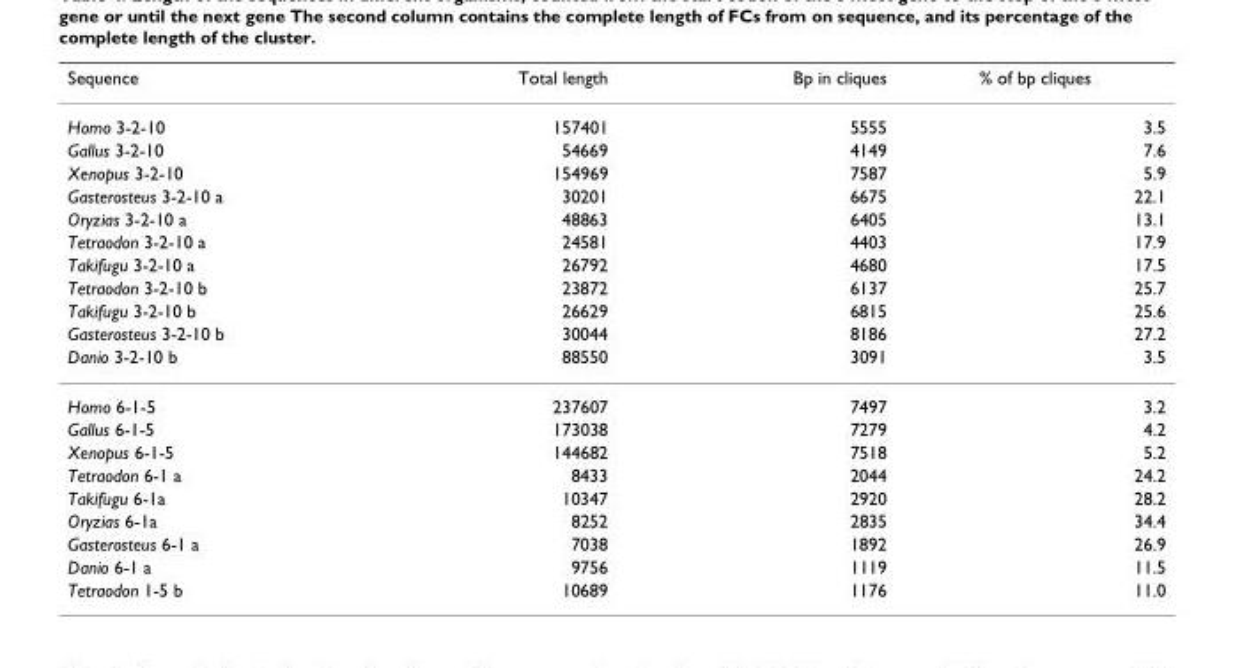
<table><thead><tr><td>Sequence</td><td>Total length</td><td>Bp in cliques</td><td>% of bp cliques</td></tr></thead><tbody><tr><td>Homo 3-2-10</td><td>157401</td><td>5555</td><td>3.5</td></tr><tr><td>Gallus 3-2-10</td><td>54669</td><td>4149</td><td>7.6</td></tr><tr><td>Xenopus 3-2-10</td><td>154969</td><td>7587</td><td>5.9</td></tr><tr><td>Gasterosteus 3-2-10 a</td><td>30201</td><td>6675</td><td>22.1</td></tr><tr><td>Oryzias 3-2-10 a</td><td>48863</td><td>6405</td><td>13.1</td></tr><tr><td>Tetraodon 3-2-10 a</td><td>24581</td><td>4403</td><td>17.9</td></tr><tr><td>Takifugu 3-2-10 a</td><td>26792</td><td>4680</td><td>17.5</td></tr><tr><td>Tetraodon 3-2-10 b</td><td>23872</td><td>6137</td><td>25.7</td></tr><tr><td>Takifugu 3-2-10 b</td><td>26629</td><td>6815</td><td>25.6</td></tr><tr><td>Gasterosteus 3-2-10 b</td><td>30044</td><td>8186</td><td>27.2</td></tr><tr><td>Danio 3-2-10 b</td><td>88550</td><td>3091</td><td>3.5</td></tr><tr><td>Homo 6-1-5</td><td>237607</td><td>7497</td><td>3.2</td></tr><tr><td>Gallus 6-1-5</td><td>173038</td><td>7279</td><td>4.2</td></tr><tr><td>Xenopus 6-1-5</td><td>144682</td><td>7518</td><td>5.2</td></tr><tr><td>Tetraodon 6-1 a</td><td>8433</td><td>2044</td><td>24.2</td></tr><tr><td>Takifugu 6-1a</td><td>10347</td><td>2920</td><td>28.2</td></tr><tr><td>Oryzias 6-1a</td><td>8252</td><td>2835</td><td>34.4</td></tr><tr><td>Gasterosteus 6-1 a</td><td>7038</td><td>1892</td><td>26.9</td></tr><tr><td>Danio 6-1 a</td><td>9756</td><td>1119</td><td>11.5</td></tr><tr><td>Tetraodon 1-5 b</td><td>10689</td><td>1176</td><td>11.0</td></tr></tbody></table>